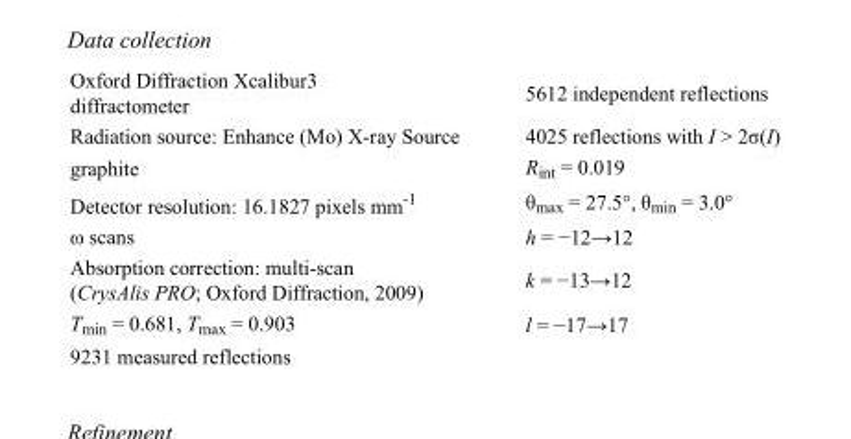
<table><tbody><tr><td>Oxford Diffraction Xcalibur3 diffractometer</td><td>5612 independent reflections</td></tr><tr><td>Radiation source: Enhance (Mo) X-ray Source</td><td>4025 reflections with I &gt; 2σ(I)</td></tr><tr><td>graphite</td><td>R<sub>int</sub> = 0.019</td></tr><tr><td>Detector resolution: 16.1827 pixels mm<sup>-1</sup></td><td>θ<sub>max</sub> = 27.5°, θ<sub>min</sub> = 3.0°</td></tr><tr><td>ω scans</td><td>h = −12→12</td></tr><tr><td>Absorption correction: multi-scan (CrysAlis PRO; Oxford Diffraction, 2009)</td><td>k = −13→12</td></tr><tr><td>T<sub>min</sub> = 0.681, T<sub>max</sub> = 0.903</td><td>l = −17→17</td></tr><tr><td>9231 measured reflections</td><td></td></tr></tbody></table>